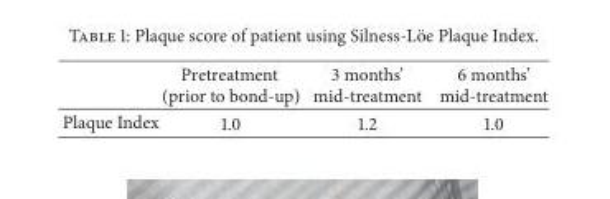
<table><thead><tr><td></td><td>Pretreatment (prior to bond-up)</td><td>3 months’ mid-treatment</td><td>6 months’ mid-treatment</td></tr></thead><tbody><tr><td>Plaque Index</td><td>1.0</td><td>1.2</td><td>1.0</td></tr></tbody></table>